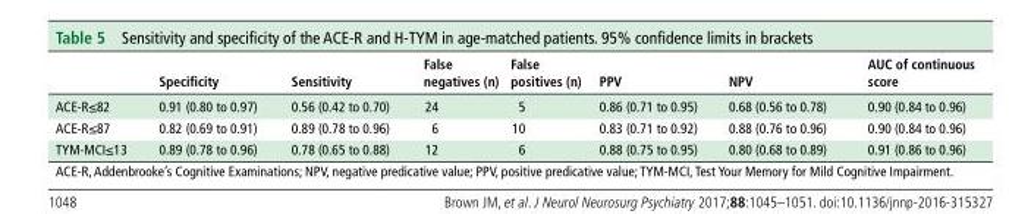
<table><thead><tr><td></td><td>specificity</td><td>sensitivity</td><td>False negatives (n)</td><td>False positives (n)</td><td>PPV</td><td>nPV</td><td>Auc of continuous score</td></tr></thead><tbody><tr><td>ACE-R≤82</td><td>0.91 (0.80 to 0.97)</td><td>0.56 (0.42 to 0.70)</td><td>24</td><td>5</td><td>0.86 (0.71 to 0.95)</td><td>0.68 (0.56 to 0.78)</td><td>0.90 (0.84 to 0.96)</td></tr><tr><td>ACE-R≤87</td><td>0.82 (0.69 to 0.91)</td><td>0.89 (0.78 to 0.96)</td><td>6</td><td>10</td><td>0.83 (0.71 to 0.92)</td><td>0.88 (0.76 to 0.96)</td><td>0.90 (0.84 to 0.96)</td></tr><tr><td>TYM-MCI≤13</td><td>0.89 (0.78 to 0.96)</td><td>0.78 (0.65 to 0.88)</td><td>12</td><td>6</td><td>0.88 (0.75 to 0.95)</td><td>0.80 (0.68 to 0.89)</td><td>0.91 (0.86 to 0.96)</td></tr></tbody></table>